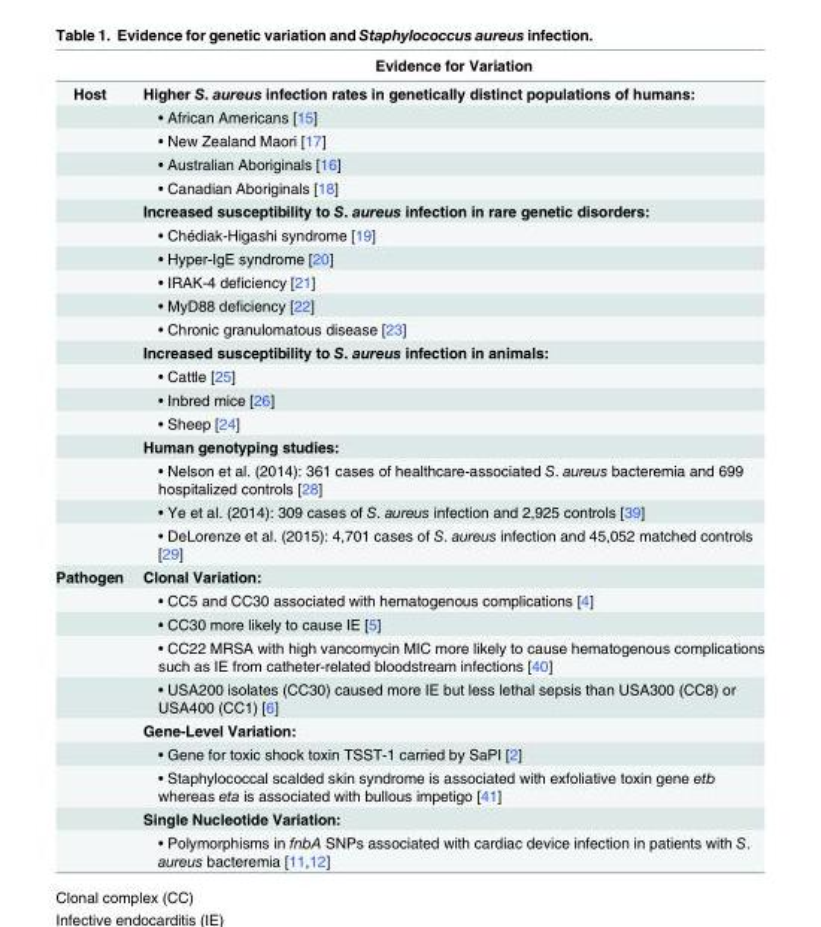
<table><thead><tr><td></td><td>Evidence for Variation</td></tr></thead><tbody><tr><td rowspan="19">Host</td><td>Higher S. aureus infection rates in genetically distinct populations of humans:</td></tr><tr><td>• African Americans [15]</td></tr><tr><td>• New Zealand Maori [17]</td></tr><tr><td>• Australian Aboriginals [16]</td></tr><tr><td>• Canadian Aboriginals [18]</td></tr><tr><td>Increased susceptibility to S. aureus infection in rare genetic disorders:</td></tr><tr><td>• Chédiak-Higashi syndrome [19]</td></tr><tr><td>• Hyper-IgE syndrome [20]</td></tr><tr><td>• IRAK-4 deficiency [21]</td></tr><tr><td>• MyD88 deficiency [22]</td></tr><tr><td>• Chronic granulomatous disease [23]</td></tr><tr><td>Increased susceptibility to S. aureus infection in animals:</td></tr><tr><td>• Cattle [25]</td></tr><tr><td>• Inbred mice [26]</td></tr><tr><td>• Sheep [24]</td></tr><tr><td>Human genotyping studies:</td></tr><tr><td>• Nelson et al. (2014): 361 cases of healthcare-associated S. aureus bacteremia and 699 hospitalized controls [28]</td></tr><tr><td>• Ye et al. (2014): 309 cases of S. aureus infection and 2,925 controls [39]</td></tr><tr><td>• DeLorenze et al. (2015): 4,701 cases of S. aureus infection and 45,052 matched controls [29]</td></tr><tr><td rowspan="10">Pathogen</td><td>Clonal Variation:</td></tr><tr><td>• CC5 and CC30 associated with hematogenous complications [4]</td></tr><tr><td>• CC30 more likely to cause IE [5]</td></tr><tr><td>• CC22 MRSA with high vancomycin MIC more likely to cause hematogenous complications such as IE from catheter-related bloodstream infections [40]</td></tr><tr><td>• USA200 isolates (CC30) caused more IE but less lethal sepsis than USA300 (CC8) or USA400 (CC1) [6]</td></tr><tr><td>Gene-Level Variation:</td></tr><tr><td>• Gene for toxic shock toxin TSST-1 carried by SaPI [2]</td></tr><tr><td>• Staphylococcal scalded skin syndrome is associated with exfoliative toxin gene etb whereas eta is associated with bullous impetigo [41]</td></tr><tr><td>Single Nucleotide Variation:</td></tr><tr><td>• Polymorphisms in fnbA SNPs associated with cardiac device infection in patients with S. aureus bacteremia [11,12]</td></tr></tbody></table>